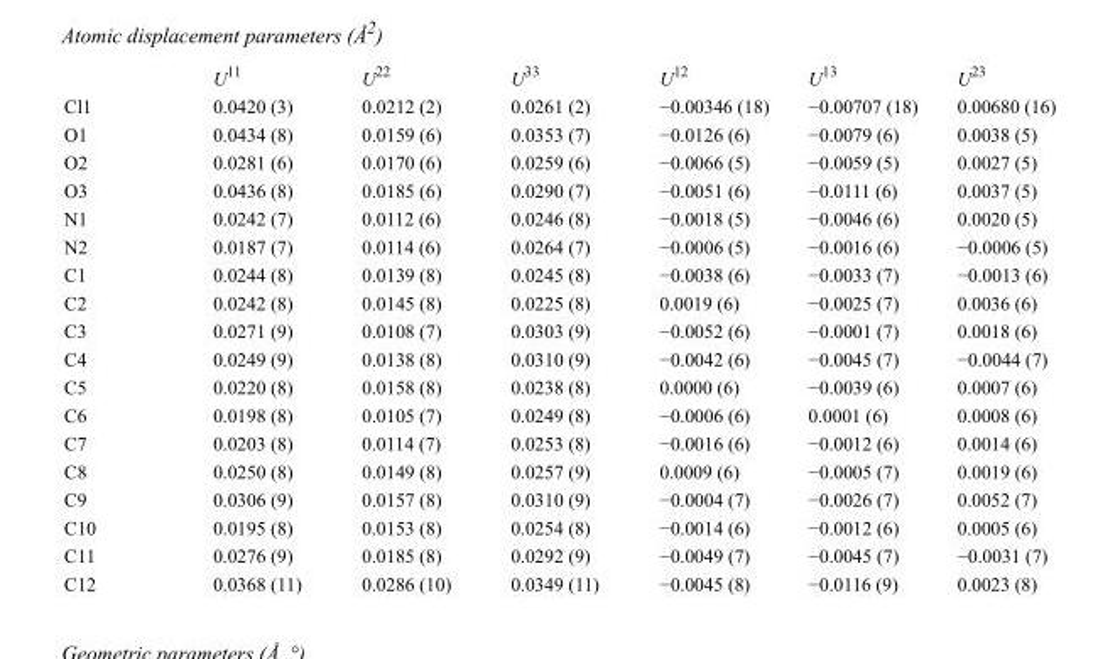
<table><thead><tr><td></td><td>U<sup>11</sup></td><td>U<sup>22</sup></td><td>U<sup>33</sup></td><td>U<sup>12</sup></td><td>U<sup>13</sup></td><td>U<sup>23</sup></td></tr></thead><tbody><tr><td>Cl1</td><td>0.0420 (3)</td><td>0.0212 (2)</td><td>0.0261 (2)</td><td>−0.00346 (18)</td><td>−0.00707 (18)</td><td>0.00680 (16)</td></tr><tr><td>O1</td><td>0.0434 (8)</td><td>0.0159 (6)</td><td>0.0353 (7)</td><td>−0.0126 (6)</td><td>−0.0079 (6)</td><td>0.0038 (5)</td></tr><tr><td>O2</td><td>0.0281 (6)</td><td>0.0170 (6)</td><td>0.0259 (6)</td><td>−0.0066 (5)</td><td>−0.0059 (5)</td><td>0.0027 (5)</td></tr><tr><td>O3</td><td>0.0436 (8)</td><td>0.0185 (6)</td><td>0.0290 (7)</td><td>−0.0051 (6)</td><td>−0.0111 (6)</td><td>0.0037 (5)</td></tr><tr><td>N1</td><td>0.0242 (7)</td><td>0.0112 (6)</td><td>0.0246 (8)</td><td>−0.0018 (5)</td><td>−0.0046 (6)</td><td>0.0020 (5)</td></tr><tr><td>N2</td><td>0.0187 (7)</td><td>0.0114 (6)</td><td>0.0264 (7)</td><td>−0.0006 (5)</td><td>−0.0016 (6)</td><td>−0.0006 (5)</td></tr><tr><td>C1</td><td>0.0244 (8)</td><td>0.0139 (8)</td><td>0.0245 (8)</td><td>−0.0038 (6)</td><td>−0.0033 (7)</td><td>−0.0013 (6)</td></tr><tr><td>C2</td><td>0.0242 (8)</td><td>0.0145 (8)</td><td>0.0225 (8)</td><td>0.0019 (6)</td><td>−0.0025 (7)</td><td>0.0036 (6)</td></tr><tr><td>C3</td><td>0.0271 (9)</td><td>0.0108 (7)</td><td>0.0303 (9)</td><td>−0.0052 (6)</td><td>−0.0001 (7)</td><td>0.0018 (6)</td></tr><tr><td>C4</td><td>0.0249 (9)</td><td>0.0138 (8)</td><td>0.0310 (9)</td><td>−0.0042 (6)</td><td>−0.0045 (7)</td><td>−0.0044 (7)</td></tr><tr><td>C5</td><td>0.0220 (8)</td><td>0.0158 (8)</td><td>0.0238 (8)</td><td>0.0000 (6)</td><td>−0.0039 (6)</td><td>0.0007 (6)</td></tr><tr><td>C6</td><td>0.0198 (8)</td><td>0.0105 (7)</td><td>0.0249 (8)</td><td>−0.0006 (6)</td><td>0.0001 (6)</td><td>0.0008 (6)</td></tr><tr><td>C7</td><td>0.0203 (8)</td><td>0.0114 (7)</td><td>0.0253 (8)</td><td>−0.0016 (6)</td><td>−0.0012 (6)</td><td>0.0014 (6)</td></tr><tr><td>C8</td><td>0.0250 (8)</td><td>0.0149 (8)</td><td>0.0257 (9)</td><td>0.0009 (6)</td><td>−0.0005 (7)</td><td>0.0019 (6)</td></tr><tr><td>C9</td><td>0.0306 (9)</td><td>0.0157 (8)</td><td>0.0310 (9)</td><td>−0.0004 (7)</td><td>−0.0026 (7)</td><td>0.0052 (7)</td></tr><tr><td>C10</td><td>0.0195 (8)</td><td>0.0153 (8)</td><td>0.0254 (8)</td><td>−0.0014 (6)</td><td>−0.0012 (6)</td><td>0.0005 (6)</td></tr><tr><td>C11</td><td>0.0276 (9)</td><td>0.0185 (8)</td><td>0.0292 (9)</td><td>−0.0049 (7)</td><td>−0.0045 (7)</td><td>−0.0031 (7)</td></tr><tr><td>C12</td><td>0.0368 (11)</td><td>0.0286 (10)</td><td>0.0349 (11)</td><td>−0.0045 (8)</td><td>−0.0116 (9)</td><td>0.0023 (8)</td></tr></tbody></table>